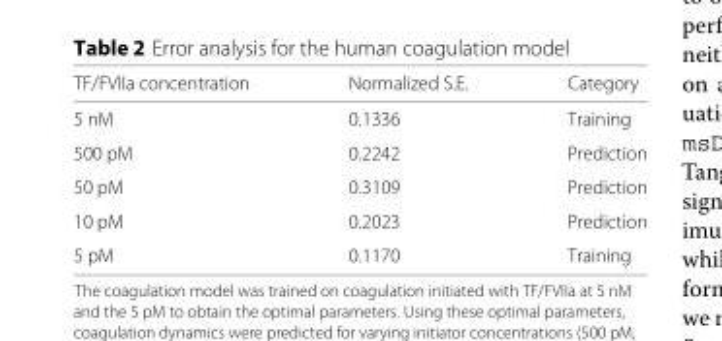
<table><thead><tr><td>TF/FVIIa concentration</td><td>Normalized S.E.</td><td>Category</td></tr></thead><tbody><tr><td>5 nM</td><td>0.1336</td><td>Training</td></tr><tr><td>500 pM</td><td>0.2242</td><td>Prediction</td></tr><tr><td>50 pM</td><td>0.3109</td><td>Prediction</td></tr><tr><td>10 pM</td><td>0.2023</td><td>Prediction</td></tr><tr><td>5 pM</td><td>0.1170</td><td>Training</td></tr></tbody></table>